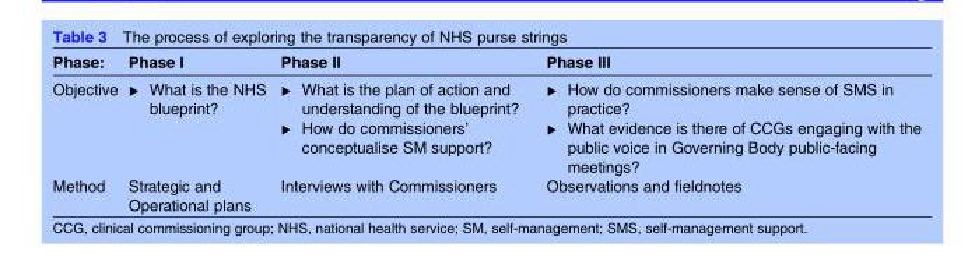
<table><thead><tr><td>Phase:</td><td>Phase I</td><td>Phase II</td><td>Phase III</td></tr></thead><tbody><tr><td>Objective</td><td>▸ What is the NHS blueprint?</td><td>▸ What is the plan of action and understanding of the blueprint? ▸ How do commissioners’ conceptualise SM support?</td><td>▸ How do commissioners make sense of SMS in practice? ▸ What evidence is there of CCGs engaging with the public voice in Governing Body public-facing meetings?</td></tr><tr><td>Method</td><td>Strategic and Operational plans</td><td>Interviews with Commissioners</td><td>Observations and fieldnotes</td></tr></tbody></table>